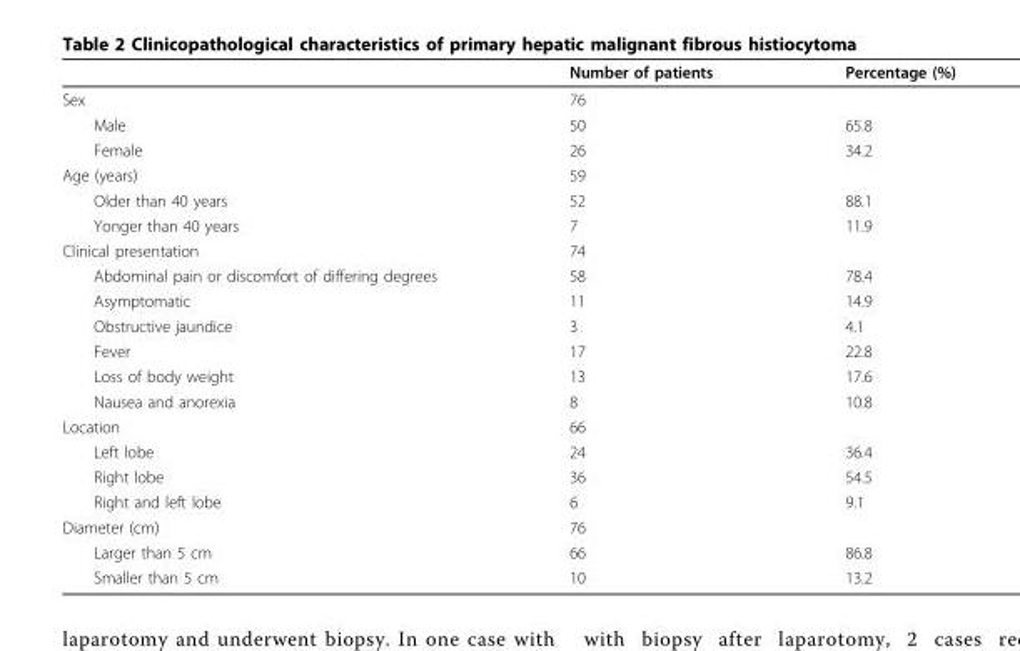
<table><thead><tr><td></td><td>Number of patients</td><td>Percentage (%)</td></tr></thead><tbody><tr><td>Sex</td><td>76</td><td></td></tr><tr><td>Male</td><td>50</td><td>65.8</td></tr><tr><td>Female</td><td>26</td><td>34.2</td></tr><tr><td>Age (years)</td><td>59</td><td></td></tr><tr><td>Older than 40 years</td><td>52</td><td>88.1</td></tr><tr><td>Yonger than 40 years</td><td>7</td><td>11.9</td></tr><tr><td>Clinical presentation</td><td>74</td><td></td></tr><tr><td>Abdominal pain or discomfort of differing degrees</td><td>58</td><td>78.4</td></tr><tr><td>Asymptomatic</td><td>11</td><td>14.9</td></tr><tr><td>Obstructive jaundice</td><td>3</td><td>4.1</td></tr><tr><td>Fever</td><td>17</td><td>22.8</td></tr><tr><td>Loss of body weight</td><td>13</td><td>17.6</td></tr><tr><td>Nausea and anorexia</td><td>8</td><td>10.8</td></tr><tr><td>Location</td><td>66</td><td></td></tr><tr><td>Left lobe</td><td>24</td><td>36.4</td></tr><tr><td>Right lobe</td><td>36</td><td>54.5</td></tr><tr><td>Right and left lobe</td><td>6</td><td>9.1</td></tr><tr><td>Diameter (cm)</td><td>76</td><td></td></tr><tr><td>Larger than 5 cm</td><td>66</td><td>86.8</td></tr><tr><td>Smaller than 5 cm</td><td>10</td><td>13.2</td></tr></tbody></table>